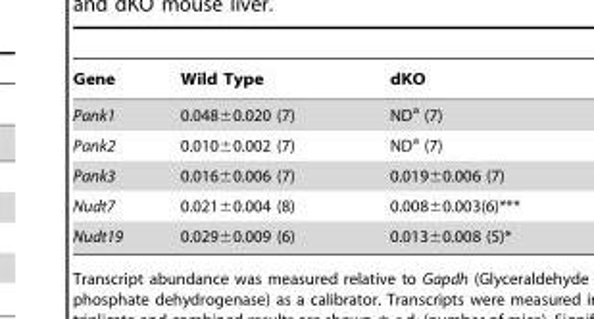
<table><thead><tr><td>Gene</td><td>Wild Type</td><td>dKO</td></tr></thead><tbody><tr><td>Pank1</td><td>0.048±0.020 (7)</td><td>ND<sup>a</sup> (7)</td></tr><tr><td>Pank2</td><td>0.010±0.002 (7)</td><td>ND<sup>a</sup> (7)</td></tr><tr><td>Pank3</td><td>0.016±0.006 (7)</td><td>0.019±0.006 (7)</td></tr><tr><td>Nudt7</td><td>0.021±0.004 (8)</td><td>0.008±0.003(6)***</td></tr><tr><td>Nudt19</td><td>0.029±0.009 (6)</td><td>0.013±0.008 (5)*</td></tr></tbody></table>